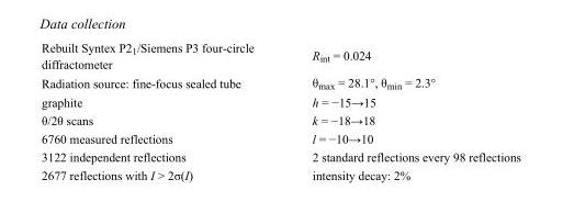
<table><tbody><tr><td>Rebuilt Syntex P2<sub>1</sub>/Siemens P3 four-circle diffractometer</td><td>R<sub>int</sub> = 0.024</td></tr><tr><td>Radiation source: fine-focus sealed tube</td><td>θ<sub>max</sub> = 28.1°, θ<sub>min</sub> = 2.3°</td></tr><tr><td>graphite</td><td>h = −15→15</td></tr><tr><td>θ/2θ scans</td><td>k = −18→18</td></tr><tr><td>6760 measured reflections</td><td>l = −10→10</td></tr><tr><td>3122 independent reflections</td><td>2 standard reflections every 98 reflections</td></tr><tr><td>2677 reflections with I &gt; 2σ(I)</td><td>intensity decay: 2%</td></tr></tbody></table>